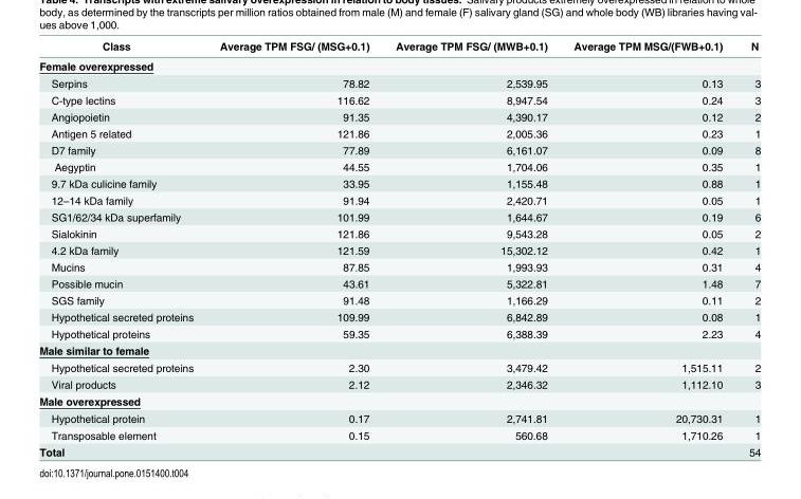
<table><thead><tr><td>Class</td><td>Average TPM FSG/ (MSG+0.1)</td><td>Average TPM FSG/ (MWB+0.1)</td><td>Average TPM MSG/(FWB+0.1)</td><td>N</td></tr></thead><tbody><tr><td colspan="5">Female overexpressed</td></tr><tr><td>Serpins</td><td>78.82</td><td>2,539.95</td><td>0.13</td><td>3</td></tr><tr><td>C-type lectins</td><td>116.62</td><td>8,947.54</td><td>0.24</td><td>3</td></tr><tr><td>Angiopoietin</td><td>91.35</td><td>4,390.17</td><td>0.12</td><td>2</td></tr><tr><td>Antigen 5 related</td><td>121.86</td><td>2,005.36</td><td>0.23</td><td>1</td></tr><tr><td>D7 family</td><td>77.89</td><td>6,161.07</td><td>0.09</td><td>8</td></tr><tr><td>Aegyptin</td><td>44.55</td><td>1,704.06</td><td>0.35</td><td>1</td></tr><tr><td>9.7 kDa culicine family</td><td>33.95</td><td>1,155.48</td><td>0.88</td><td>1</td></tr><tr><td>12–14 kDa family</td><td>91.94</td><td>2,420.71</td><td>0.05</td><td>1</td></tr><tr><td>SG1/62/34 kDa superfamily</td><td>101.99</td><td>1,644.67</td><td>0.19</td><td>6</td></tr><tr><td>Sialokinin</td><td>121.86</td><td>9,543.28</td><td>0.05</td><td>2</td></tr><tr><td>4.2 kDa family</td><td>121.59</td><td>15,302.12</td><td>0.42</td><td>1</td></tr><tr><td>Mucins</td><td>87.85</td><td>1,993.93</td><td>0.31</td><td>4</td></tr><tr><td>Possible mucin</td><td>43.61</td><td>5,322.81</td><td>1.48</td><td>7</td></tr><tr><td>SGS family</td><td>91.48</td><td>1,166.29</td><td>0.11</td><td>2</td></tr><tr><td>Hypothetical secreted proteins</td><td>109.99</td><td>6,842.89</td><td>0.08</td><td>1</td></tr><tr><td>Hypothetical proteins</td><td>59.35</td><td>6,388.39</td><td>2.23</td><td>4</td></tr><tr><td colspan="5">Male similar to female</td></tr><tr><td>Hypothetical secreted proteins</td><td>2.30</td><td>3,479.42</td><td>1,515.11</td><td>2</td></tr><tr><td>Viral products</td><td>2.12</td><td>2,346.32</td><td>1,112.10</td><td>3</td></tr><tr><td colspan="5">Male overexpressed</td></tr><tr><td>Hypothetical protein</td><td>0.17</td><td>2,741.81</td><td>20,730.31</td><td>1</td></tr><tr><td>Transposable element</td><td>0.15</td><td>560.68</td><td>1,710.26</td><td>1</td></tr><tr><td>Total</td><td></td><td></td><td></td><td>54</td></tr></tbody></table>